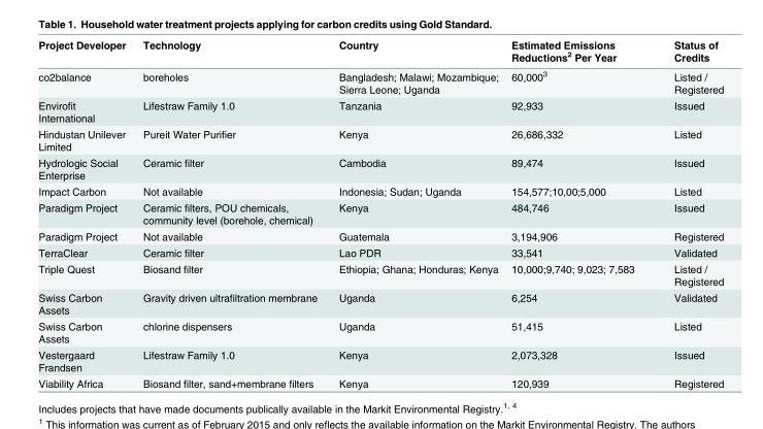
<table><thead><tr><td>Project Developer</td><td>Technology</td><td>Country</td><td>Estimated Emissions Reductions<sup>2</sup> Per Year</td><td>Status of Credits</td></tr></thead><tbody><tr><td>co2balance</td><td>boreholes</td><td>Bangladesh; Malawi; Mozambique; Sierra Leone; Uganda</td><td>60,000<sup>3</sup></td><td>Listed / Registered</td></tr><tr><td>Envirofit International</td><td>Lifestraw Family 1.0</td><td>Tanzania</td><td>92,933</td><td>Issued</td></tr><tr><td>Hindustan Unilever Limited</td><td>Pureit Water Purifier</td><td>Kenya</td><td>26,686,332</td><td>Listed</td></tr><tr><td>Hydrologic Social Enterprise</td><td>Ceramic filter</td><td>Cambodia</td><td>89,474</td><td>Issued</td></tr><tr><td>Impact Carbon</td><td>Not available</td><td>Indonesia; Sudan; Uganda</td><td>154,577;10,00;5,000</td><td>Listed</td></tr><tr><td>Paradigm Project</td><td>Ceramic filters, POU chemicals, community level (borehole, chemical)</td><td>Kenya</td><td>484,746</td><td>Issued</td></tr><tr><td>Paradigm Project</td><td>Not available</td><td>Guatemala</td><td>3,194,906</td><td>Registered</td></tr><tr><td>TerraClear</td><td>Ceramic filter</td><td>Lao PDR</td><td>33,541</td><td>Validated</td></tr><tr><td>Triple Quest</td><td>Biosand filter</td><td>Ethiopia; Ghana; Honduras; Kenya</td><td>10,000;9,740; 9,023; 7,583</td><td>Listed / Registered</td></tr><tr><td>Swiss Carbon Assets</td><td>Gravity driven ultrafiltration membrane</td><td>Uganda</td><td>6,254</td><td>Validated</td></tr><tr><td>Swiss Carbon Assets</td><td>chlorine dispensers</td><td>Uganda</td><td>51,415</td><td>Listed</td></tr><tr><td>Vestergaard Frandsen</td><td>Lifestraw Family 1.0</td><td>Kenya</td><td>2,073,328</td><td>Issued</td></tr><tr><td>Viability Africa</td><td>Biosand filter, sand+membrane filters</td><td>Kenya</td><td>120,939</td><td>Registered</td></tr></tbody></table>